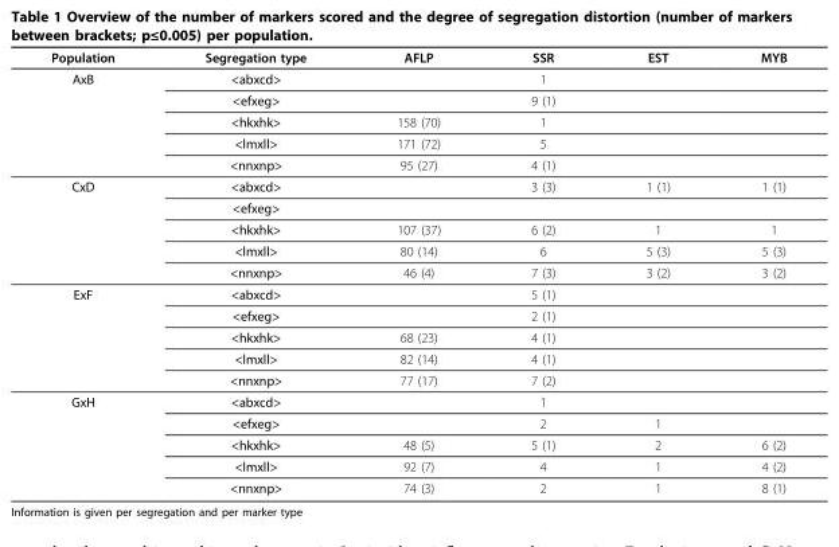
<table><thead><tr><td>Population</td><td>Segregation type</td><td>AFLP</td><td>SSR</td><td>EST</td><td>MYB</td></tr></thead><tbody><tr><td rowspan="5">AxB</td><td>&lt;abxcd&gt;</td><td></td><td>1</td><td></td><td></td></tr><tr><td>&lt;efxeg&gt;</td><td></td><td>9 (1)</td><td></td><td></td></tr><tr><td>&lt;hkxhk&gt;</td><td>158 (70)</td><td>1</td><td></td><td></td></tr><tr><td>&lt;lmxll&gt;</td><td>171 (72)</td><td>5</td><td></td><td></td></tr><tr><td>&lt;nnxnp&gt;</td><td>95 (27)</td><td>4 (1)</td><td></td><td></td></tr><tr><td rowspan="5">CxD</td><td>&lt;abxcd&gt;</td><td></td><td>3 (3)</td><td>1 (1)</td><td>1 (1)</td></tr><tr><td>&lt;efxeg&gt;</td><td></td><td></td><td></td><td></td></tr><tr><td>&lt;hkxhk&gt;</td><td>107 (37)</td><td>6 (2)</td><td>1</td><td>1</td></tr><tr><td>&lt;lmxll&gt;</td><td>80 (14)</td><td>6</td><td>5 (3)</td><td>5 (3)</td></tr><tr><td>&lt;nnxnp&gt;</td><td>46 (4)</td><td>7 (3)</td><td>3 (2)</td><td>3 (2)</td></tr><tr><td rowspan="5">ExF</td><td>&lt;abxcd&gt;</td><td></td><td>5 (1)</td><td></td><td></td></tr><tr><td>&lt;efxeg&gt;</td><td></td><td>2 (1)</td><td></td><td></td></tr><tr><td>&lt;hkxhk&gt;</td><td>68 (23)</td><td>4 (1)</td><td></td><td></td></tr><tr><td>&lt;lmxll&gt;</td><td>82 (14)</td><td>4 (1)</td><td></td><td></td></tr><tr><td>&lt;nnxnp&gt;</td><td>77 (17)</td><td>7 (2)</td><td></td><td></td></tr><tr><td rowspan="5">GxH</td><td>&lt;abxcd&gt;</td><td></td><td>1</td><td></td><td></td></tr><tr><td>&lt;efxeg&gt;</td><td></td><td>2</td><td>1</td><td></td></tr><tr><td>&lt;hkxhk&gt;</td><td>48 (5)</td><td>5 (1)</td><td>2</td><td>6 (2)</td></tr><tr><td>&lt;lmxll&gt;</td><td>92 (7)</td><td>4</td><td>1</td><td>4 (2)</td></tr><tr><td>&lt;nnxnp&gt;</td><td>74 (3)</td><td>2</td><td>1</td><td>8 (1)</td></tr></tbody></table>